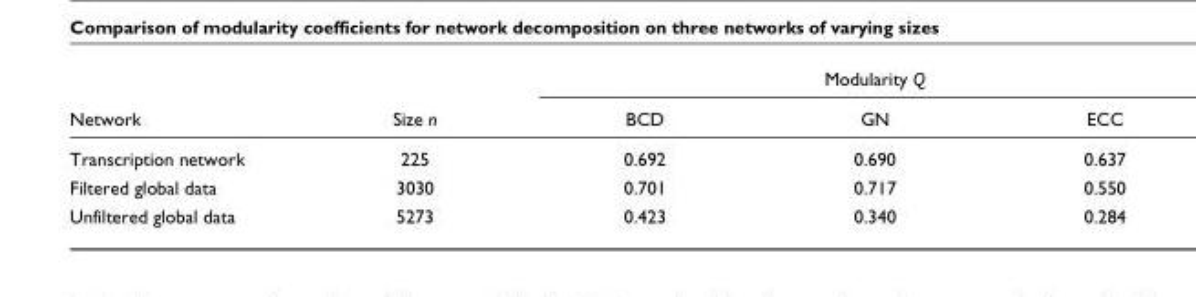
<table><thead><tr><td rowspan="2">Network</td><td rowspan="2">Size n</td><td colspan="3">Modularity Q</td></tr><tr><td>BCD</td><td>GN</td><td>ECC</td></tr></thead><tbody><tr><td>Transcription network</td><td>225</td><td>0.692</td><td>0.690</td><td>0.637</td></tr><tr><td>Filtered global data</td><td>3030</td><td>0.701</td><td>0.717</td><td>0.550</td></tr><tr><td>Unfiltered global data</td><td>5273</td><td>0.423</td><td>0.340</td><td>0.284</td></tr></tbody></table>